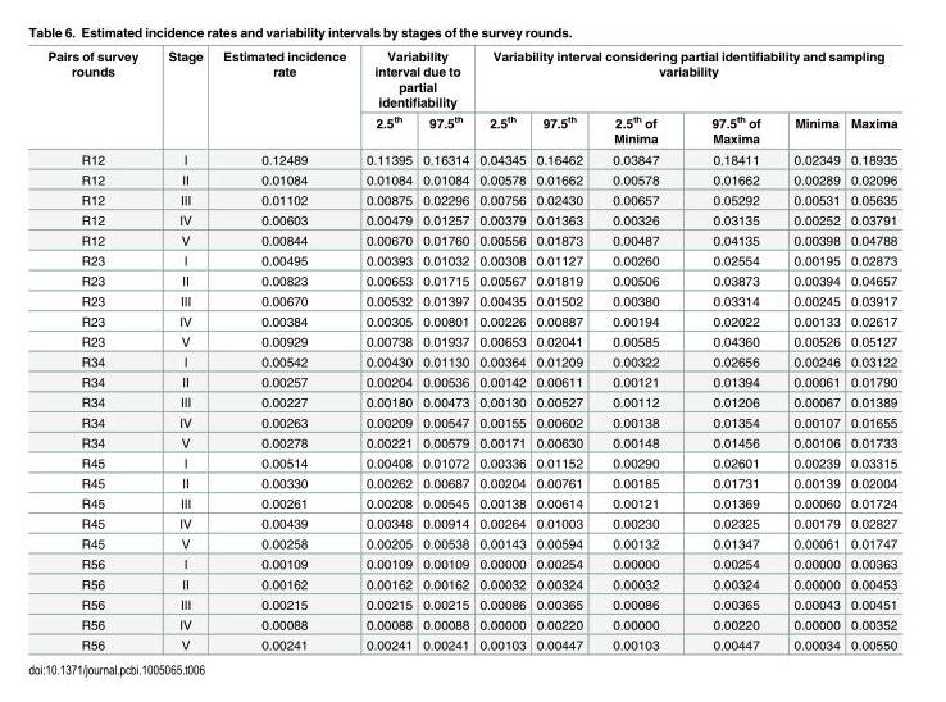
<table><thead><tr><td rowspan="2">Pairs of survey rounds</td><td rowspan="2">Stage</td><td rowspan="2">Estimated incidence rate</td><td colspan="2">Variability interval due to partial identifiability</td><td colspan="6">Variability interval considering partial identifiability and sampling variability</td></tr><tr><td>2.5<sup>th</sup></td><td>97.5<sup>th</sup></td><td>2.5<sup>th</sup></td><td>97.5<sup>th</sup></td><td>2.5<sup>th</sup> of Minima</td><td>97.5<sup>th</sup> of Maxima</td><td>Minima</td><td>Maxima</td></tr></thead><tbody><tr><td>R12</td><td>I</td><td>0.12489</td><td>0.11395</td><td>0.16314</td><td>0.04345</td><td>0.16462</td><td>0.03847</td><td>0.18411</td><td>0.02349</td><td>0.18935</td></tr><tr><td>R12</td><td>II</td><td>0.01084</td><td>0.01084</td><td>0.01084</td><td>0.00578</td><td>0.01662</td><td>0.00578</td><td>0.01662</td><td>0.00289</td><td>0.02096</td></tr><tr><td>R12</td><td>III</td><td>0.01102</td><td>0.00875</td><td>0.02296</td><td>0.00756</td><td>0.02430</td><td>0.00657</td><td>0.05292</td><td>0.00531</td><td>0.05635</td></tr><tr><td>R12</td><td>IV</td><td>0.00603</td><td>0.00479</td><td>0.01257</td><td>0.00379</td><td>0.01363</td><td>0.00326</td><td>0.03135</td><td>0.00252</td><td>0.03791</td></tr><tr><td>R12</td><td>V</td><td>0.00844</td><td>0.00670</td><td>0.01760</td><td>0.00556</td><td>0.01873</td><td>0.00487</td><td>0.04135</td><td>0.00398</td><td>0.04788</td></tr><tr><td>R23</td><td>I</td><td>0.00495</td><td>0.00393</td><td>0.01032</td><td>0.00308</td><td>0.01127</td><td>0.00260</td><td>0.02554</td><td>0.00195</td><td>0.02873</td></tr><tr><td>R23</td><td>II</td><td>0.00823</td><td>0.00653</td><td>0.01715</td><td>0.00567</td><td>0.01819</td><td>0.00506</td><td>0.03873</td><td>0.00394</td><td>0.04657</td></tr><tr><td>R23</td><td>III</td><td>0.00670</td><td>0.00532</td><td>0.01397</td><td>0.00435</td><td>0.01502</td><td>0.00380</td><td>0.03314</td><td>0.00245</td><td>0.03917</td></tr><tr><td>R23</td><td>IV</td><td>0.00384</td><td>0.00305</td><td>0.00801</td><td>0.00226</td><td>0.00887</td><td>0.00194</td><td>0.02022</td><td>0.00133</td><td>0.02617</td></tr><tr><td>R23</td><td>V</td><td>0.00929</td><td>0.00738</td><td>0.01937</td><td>0.00653</td><td>0.02041</td><td>0.00585</td><td>0.04360</td><td>0.00526</td><td>0.05127</td></tr><tr><td>R34</td><td>I</td><td>0.00542</td><td>0.00430</td><td>0.01130</td><td>0.00364</td><td>0.01209</td><td>0.00322</td><td>0.02656</td><td>0.00246</td><td>0.03122</td></tr><tr><td>R34</td><td>II</td><td>0.00257</td><td>0.00204</td><td>0.00536</td><td>0.00142</td><td>0.00611</td><td>0.00121</td><td>0.01394</td><td>0.00061</td><td>0.01790</td></tr><tr><td>R34</td><td>III</td><td>0.00227</td><td>0.00180</td><td>0.00473</td><td>0.00130</td><td>0.00527</td><td>0.00112</td><td>0.01206</td><td>0.00067</td><td>0.01389</td></tr><tr><td>R34</td><td>IV</td><td>0.00263</td><td>0.00209</td><td>0.00547</td><td>0.00155</td><td>0.00602</td><td>0.00138</td><td>0.01354</td><td>0.00107</td><td>0.01655</td></tr><tr><td>R34</td><td>V</td><td>0.00278</td><td>0.00221</td><td>0.00579</td><td>0.00171</td><td>0.00630</td><td>0.00148</td><td>0.01456</td><td>0.00106</td><td>0.01733</td></tr><tr><td>R45</td><td>I</td><td>0.00514</td><td>0.00408</td><td>0.01072</td><td>0.00336</td><td>0.01152</td><td>0.00290</td><td>0.02601</td><td>0.00239</td><td>0.03315</td></tr><tr><td>R45</td><td>II</td><td>0.00330</td><td>0.00262</td><td>0.00687</td><td>0.00204</td><td>0.00761</td><td>0.00185</td><td>0.01731</td><td>0.00139</td><td>0.02004</td></tr><tr><td>R45</td><td>III</td><td>0.00261</td><td>0.00208</td><td>0.00545</td><td>0.00138</td><td>0.00614</td><td>0.00121</td><td>0.01369</td><td>0.00060</td><td>0.01724</td></tr><tr><td>R45</td><td>IV</td><td>0.00439</td><td>0.00348</td><td>0.00914</td><td>0.00264</td><td>0.01003</td><td>0.00230</td><td>0.02325</td><td>0.00179</td><td>0.02827</td></tr><tr><td>R45</td><td>V</td><td>0.00258</td><td>0.00205</td><td>0.00538</td><td>0.00143</td><td>0.00594</td><td>0.00132</td><td>0.01347</td><td>0.00061</td><td>0.01747</td></tr><tr><td>R56</td><td>I</td><td>0.00109</td><td>0.00109</td><td>0.00109</td><td>0.00000</td><td>0.00254</td><td>0.00000</td><td>0.00254</td><td>0.00000</td><td>0.00363</td></tr><tr><td>R56</td><td>II</td><td>0.00162</td><td>0.00162</td><td>0.00162</td><td>0.00032</td><td>0.00324</td><td>0.00032</td><td>0.00324</td><td>0.00000</td><td>0.00453</td></tr><tr><td>R56</td><td>III</td><td>0.00215</td><td>0.00215</td><td>0.00215</td><td>0.00086</td><td>0.00365</td><td>0.00086</td><td>0.00365</td><td>0.00043</td><td>0.00451</td></tr><tr><td>R56</td><td>IV</td><td>0.00088</td><td>0.00088</td><td>0.00088</td><td>0.00000</td><td>0.00220</td><td>0.00000</td><td>0.00220</td><td>0.00000</td><td>0.00352</td></tr><tr><td>R56</td><td>V</td><td>0.00241</td><td>0.00241</td><td>0.00241</td><td>0.00103</td><td>0.00447</td><td>0.00103</td><td>0.00447</td><td>0.00034</td><td>0.00550</td></tr></tbody></table>